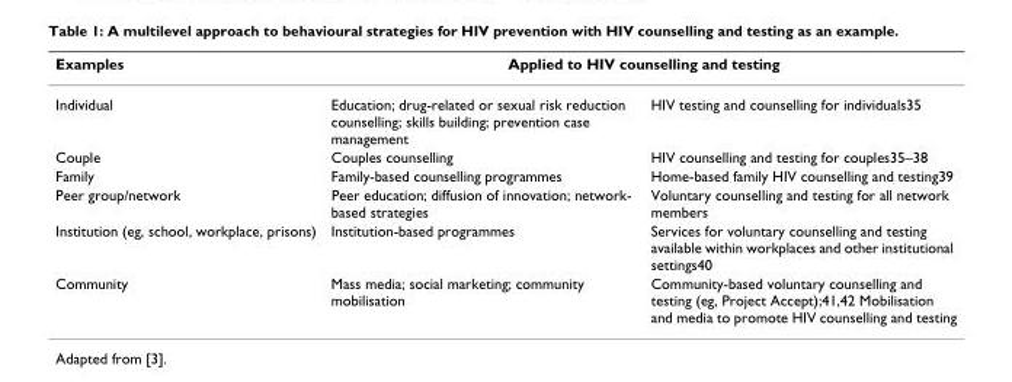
<table><thead><tr><td rowspan="2">Examples Individual</td><td colspan="2">Applied to HIV counselling and testing</td></tr><tr><td>Education; drug-related or sexual risk reduction counselling; skills building; prevention case management</td><td>HIV testing and counselling for individuals35</td></tr></thead><tbody><tr><td>Couple</td><td>Couples counselling</td><td>HIV counselling and testing for couples35–38</td></tr><tr><td>Family</td><td>Family-based counselling programmes</td><td>Home-based family HIV counselling and testing39</td></tr><tr><td>Peer group/network</td><td>Peer education; diffusion of innovation; network- based strategies</td><td>Voluntary counselling and testing for all network members</td></tr><tr><td>Institution (eg, school, workplace, prisons)</td><td>Institution-based programmes</td><td>Services for voluntary counselling and testing available within workplaces and other institutional settings40</td></tr><tr><td>Community</td><td>Mass media; social marketing; community mobilisation</td><td>Community-based voluntary counselling and testing (eg, Project Accept);41,42 Mobilisation and media to promote HIV counselling and testing</td></tr></tbody></table>